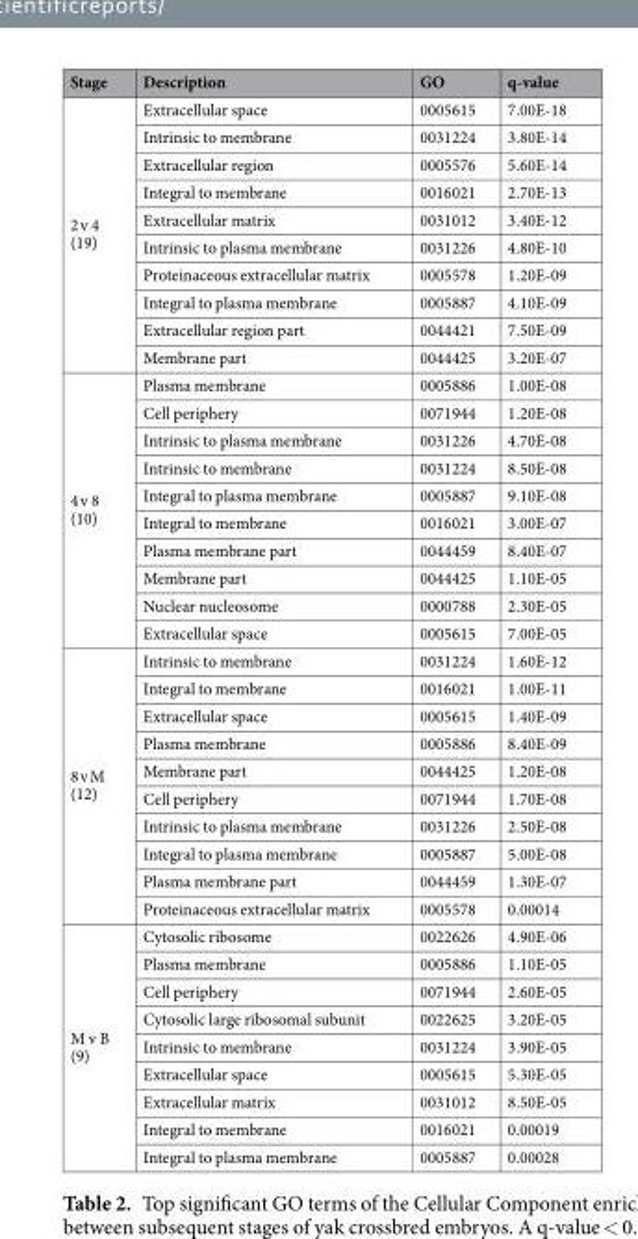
<table><thead><tr><td>Stage</td><td>Description</td><td>GO</td><td>q-value</td></tr></thead><tbody><tr><td rowspan="10">2 v 4 (19)</td><td>Extracellular space</td><td>0005615</td><td>7.00E-18</td></tr><tr><td>Intrinsic to membrane</td><td>0031224</td><td>3.80E-14</td></tr><tr><td>Extracellular region</td><td>0005576</td><td>5.60E-14</td></tr><tr><td>Integral to membrane</td><td>0016021</td><td>2.70E-13</td></tr><tr><td>Extracellular matrix</td><td>0031012</td><td>3.40E-12</td></tr><tr><td>Intrinsic to plasma membrane</td><td>0031226</td><td>4.80E-10</td></tr><tr><td>Proteinaceous extracellular matrix</td><td>0005578</td><td>1.20E-09</td></tr><tr><td>Integral to plasma membrane</td><td>0005887</td><td>4.10E-09</td></tr><tr><td>Extracellular region part</td><td>0044421</td><td>7.50E-09</td></tr><tr><td>Membrane part</td><td>0044425</td><td>3.20E-07</td></tr><tr><td rowspan="10">4 v 8 (10)</td><td>Plasma membrane</td><td>0005886</td><td>1.00E-08</td></tr><tr><td>Cell periphery</td><td>0071944</td><td>1.20E-08</td></tr><tr><td>Intrinsic to plasma membrane</td><td>0031226</td><td>4.70E-08</td></tr><tr><td>Intrinsic to membrane</td><td>0031224</td><td>8.50E-08</td></tr><tr><td>Integral to plasma membrane</td><td>0005887</td><td>9.10E-08</td></tr><tr><td>Integral to membrane</td><td>0016021</td><td>3.00E-07</td></tr><tr><td>Plasma membrane part</td><td>0044459</td><td>8.40E-07</td></tr><tr><td>Membrane part</td><td>0044425</td><td>1.10E-05</td></tr><tr><td>Nuclear nucleosome</td><td>0000788</td><td>2.30E-05</td></tr><tr><td>Extracellular space</td><td>0005615</td><td>7.00E-05</td></tr><tr><td rowspan="10">8 v M (12)</td><td>Intrinsic to membrane</td><td>0031224</td><td>1.60E-12</td></tr><tr><td>Integral to membrane</td><td>0016021</td><td>1.00E-11</td></tr><tr><td>Extracellular space</td><td>0005615</td><td>1.40E-09</td></tr><tr><td>Plasma membrane</td><td>0005886</td><td>8.40E-09</td></tr><tr><td>Membrane part</td><td>0044425</td><td>1.20E-08</td></tr><tr><td>Cell periphery</td><td>0071944</td><td>1.70E-08</td></tr><tr><td>Intrinsic to plasma membrane</td><td>0031226</td><td>2.50E-08</td></tr><tr><td>Integral to plasma membrane</td><td>0005887</td><td>5.00E-08</td></tr><tr><td>Plasma membrane part</td><td>0044459</td><td>1.30E-07</td></tr><tr><td>Proteinaceous extracellular matrix</td><td>0005578</td><td>0.00014</td></tr><tr><td rowspan="9">M v B (9)</td><td>Cytosolic ribosome</td><td>0022626</td><td>4.90E-06</td></tr><tr><td>Plasma membrane</td><td>0005886</td><td>1.10E-05</td></tr><tr><td>Cell periphery</td><td>0071944</td><td>2.60E-05</td></tr><tr><td>Cytosolic large ribosomal subunit</td><td>0022625</td><td>3.20E-05</td></tr><tr><td>Intrinsic to membrane</td><td>0031224</td><td>3.90E-05</td></tr><tr><td>Extracellular space</td><td>0005615</td><td>5.30E-05</td></tr><tr><td>Extracellular matrix</td><td>0031012</td><td>8.50E-05</td></tr><tr><td>Integral to membrane</td><td>0016021</td><td>0.00019</td></tr><tr><td>Integral to plasma membrane</td><td>0005887</td><td>0.00028</td></tr></tbody></table>